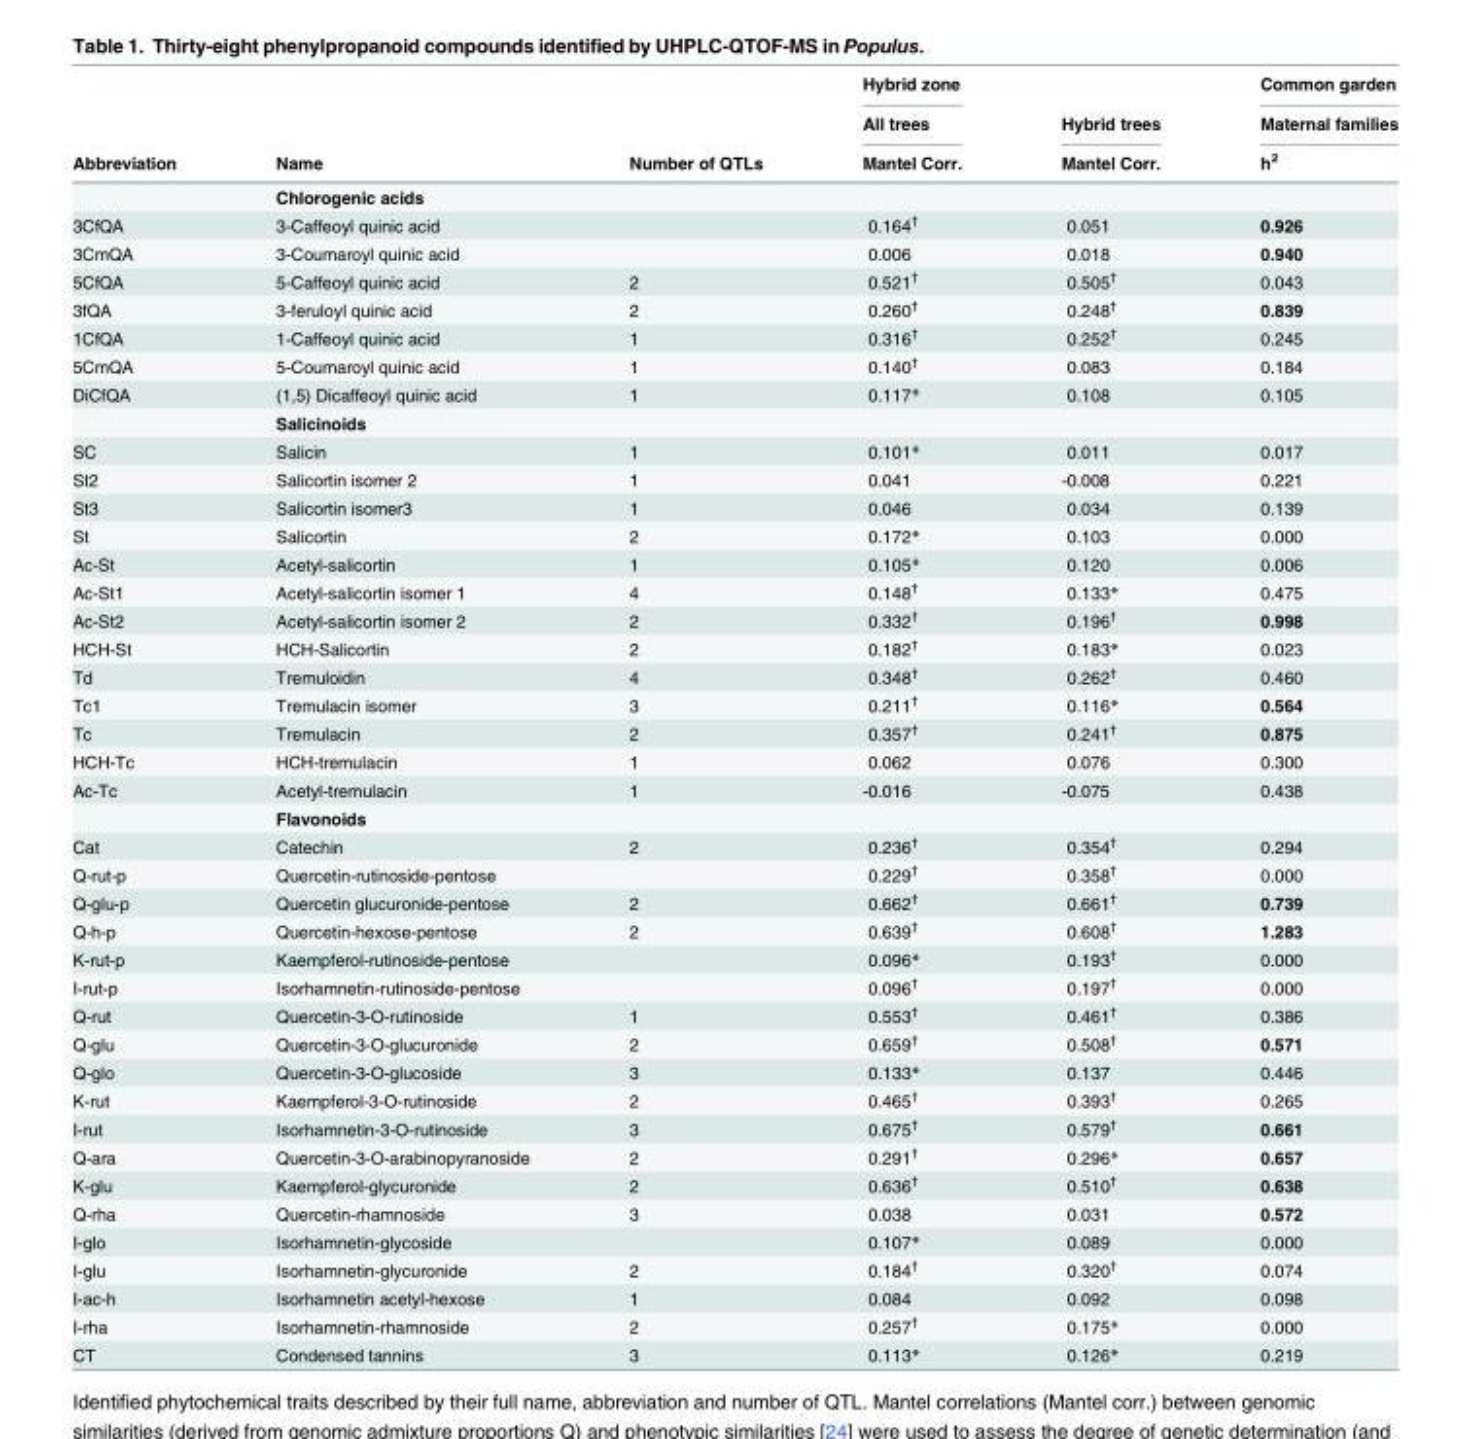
<table><thead><tr><td rowspan="3">Abbreviation</td><td rowspan="3">Name</td><td rowspan="3">Number of QTLs</td><td rowspan="3">Hybrid zone All trees Mantel Corr.</td><td rowspan="3">Hybrid trees Mantel Corr.</td><td rowspan="3">Common garden Maternal families h<sup>2</sup></td></tr><tr></tr><tr></tr></thead><tbody><tr><td></td><td>Chlorogenic acids</td><td></td><td></td><td></td><td></td></tr><tr><td>3CfQA</td><td>3-Caffeoyl quinic acid</td><td></td><td>0.164<sup>†</sup></td><td>0.051</td><td>0.926</td></tr><tr><td>3CmQA</td><td>3-Coumaroyl quinic acid</td><td></td><td>0.006</td><td>0.018</td><td>0.940</td></tr><tr><td>5CfQA</td><td>5-Caffeoyl quinic acid</td><td>2</td><td>0.521<sup>†</sup></td><td>0.505<sup>†</sup></td><td>0.043</td></tr><tr><td>3fQA</td><td>3-feruloyl quinic acid</td><td>2</td><td>0.260<sup>†</sup></td><td>0.248<sup>†</sup></td><td>0.839</td></tr><tr><td>1CfQA</td><td>1-Caffeoyl quinic acid</td><td>1</td><td>0.316<sup>†</sup></td><td>0.252<sup>†</sup></td><td>0.245</td></tr><tr><td>5CmQA</td><td>5-Coumaroyl quinic acid</td><td>1</td><td>0.140<sup>†</sup></td><td>0.083</td><td>0.184</td></tr><tr><td rowspan="2">DiCfQA</td><td>(1,5) Dicaffeoyl quinic acid</td><td>1</td><td>0.117*</td><td>0.108</td><td>0.105</td></tr><tr><td>Salicinoids</td><td></td><td></td><td></td><td></td></tr><tr><td>SC</td><td>Salicin</td><td>1</td><td>0.101*</td><td>0.011</td><td>0.017</td></tr><tr><td>St2</td><td>Salicortin isomer 2</td><td>1</td><td>0.041</td><td>-0.008</td><td>0.221</td></tr><tr><td>St3</td><td>Salicortin isomer3</td><td>1</td><td>0.046</td><td>0.034</td><td>0.139</td></tr><tr><td>St</td><td>Salicortin</td><td>2</td><td>0.172*</td><td>0.103</td><td>0.000</td></tr><tr><td>Ac-St</td><td>Acetyl-salicortin</td><td>1</td><td>0.105*</td><td>0.120</td><td>0.006</td></tr><tr><td>Ac-St1</td><td>Acetyl-salicortin isomer 1</td><td>4</td><td>0.148<sup>†</sup></td><td>0.133*</td><td>0.475</td></tr><tr><td>Ac-St2</td><td>Acetyl-salicortin isomer 2</td><td>2</td><td>0.332<sup>†</sup></td><td>0.196<sup>†</sup></td><td>0.998</td></tr><tr><td>HCH-St</td><td>HCH-Salicortin</td><td>2</td><td>0.182<sup>†</sup></td><td>0.183*</td><td>0.023</td></tr><tr><td>Td</td><td>Tremuloidin</td><td>4</td><td>0.348<sup>†</sup></td><td>0.262<sup>†</sup></td><td>0.460</td></tr><tr><td>Tc1</td><td>Tremulacin isomer</td><td>3</td><td>0.211<sup>†</sup></td><td>0.116*</td><td>0.564</td></tr><tr><td>Tc</td><td>Tremulacin</td><td>2</td><td>0.357<sup>†</sup></td><td>0.241<sup>†</sup></td><td>0.875</td></tr><tr><td>HCH-Tc</td><td>HCH-tremulacin</td><td>1</td><td>0.062</td><td>0.076</td><td>0.300</td></tr><tr><td rowspan="2">Ac-Tc</td><td>Acetyl-tremulacin</td><td>1</td><td>-0.016</td><td>-0.075</td><td>0.438</td></tr><tr><td>Flavonoids</td><td></td><td></td><td></td><td></td></tr><tr><td>Cat</td><td>Catechin</td><td>2</td><td>0.236<sup>†</sup></td><td>0.354<sup>†</sup></td><td>0.294</td></tr><tr><td>Q-rut-p</td><td>Quercetin-rutinoside-pentose</td><td></td><td>0.229<sup>†</sup></td><td>0.358<sup>†</sup></td><td>0.000</td></tr><tr><td>Q-glu-p</td><td>Quercetin glucuronide-pentose</td><td>2</td><td>0.662<sup>†</sup></td><td>0.661<sup>†</sup></td><td>0.739</td></tr><tr><td>Q-h-p</td><td>Quercetin-hexose-pentose</td><td>2</td><td>0.639<sup>†</sup></td><td>0.608<sup>†</sup></td><td>1.283</td></tr><tr><td>K-rut-p</td><td>Kaempferol-rutinoside-pentose</td><td></td><td>0.096*</td><td>0.193<sup>†</sup></td><td>0.000</td></tr><tr><td>I-rut-p</td><td>Isorhamnetin-rutinoside-pentose</td><td></td><td>0.096<sup>†</sup></td><td>0.197<sup>†</sup></td><td>0.000</td></tr><tr><td>Q-rut</td><td>Quercetin-3-O-rutinoside</td><td>1</td><td>0.553<sup>†</sup></td><td>0.461<sup>†</sup></td><td>0.386</td></tr><tr><td>Q-glu</td><td>Quercetin-3-O-glucuronide</td><td>2</td><td>0.659<sup>†</sup></td><td>0.508<sup>†</sup></td><td>0.571</td></tr><tr><td>Q-glo</td><td>Quercetin-3-O-glucoside</td><td>3</td><td>0.133*</td><td>0.137</td><td>0.446</td></tr><tr><td>K-rut</td><td>Kaempferol-3-O-rutinoside</td><td>2</td><td>0.465<sup>†</sup></td><td>0.393<sup>†</sup></td><td>0.265</td></tr><tr><td>I-rut</td><td>Isorhamnetin-3-O-rutinoside</td><td>3</td><td>0.675<sup>†</sup></td><td>0.579<sup>†</sup></td><td>0.661</td></tr><tr><td>Q-ara</td><td>Quercetin-3-O-arabinopyranoside</td><td>2</td><td>0.291<sup>†</sup></td><td>0.296*</td><td>0.657</td></tr><tr><td>K-glu</td><td>Kaempferol-glycuronide</td><td>2</td><td>0.636<sup>†</sup></td><td>0.510<sup>†</sup></td><td>0.638</td></tr><tr><td>Q-rha</td><td>Quercetin-rhamnoside</td><td>3</td><td>0.038</td><td>0.031</td><td>0.572</td></tr><tr><td>I-glo</td><td>Isorhamnetin-glycoside</td><td></td><td>0.107*</td><td>0.089</td><td>0.000</td></tr><tr><td>I-glu</td><td>Isorhamnetin-glycuronide</td><td>2</td><td>0.184<sup>†</sup></td><td>0.320<sup>†</sup></td><td>0.074</td></tr><tr><td>I-ac-h</td><td>Isorhamnetin acetyl-hexose</td><td>1</td><td>0.084</td><td>0.092</td><td>0.098</td></tr><tr><td>I-rha</td><td>Isorhamnetin-rhamnoside</td><td>2</td><td>0.257<sup>†</sup></td><td>0.175*</td><td>0.000</td></tr><tr><td>CT</td><td>Condensed tannins</td><td>3</td><td>0.113*</td><td>0.126*</td><td>0.219</td></tr></tbody></table>